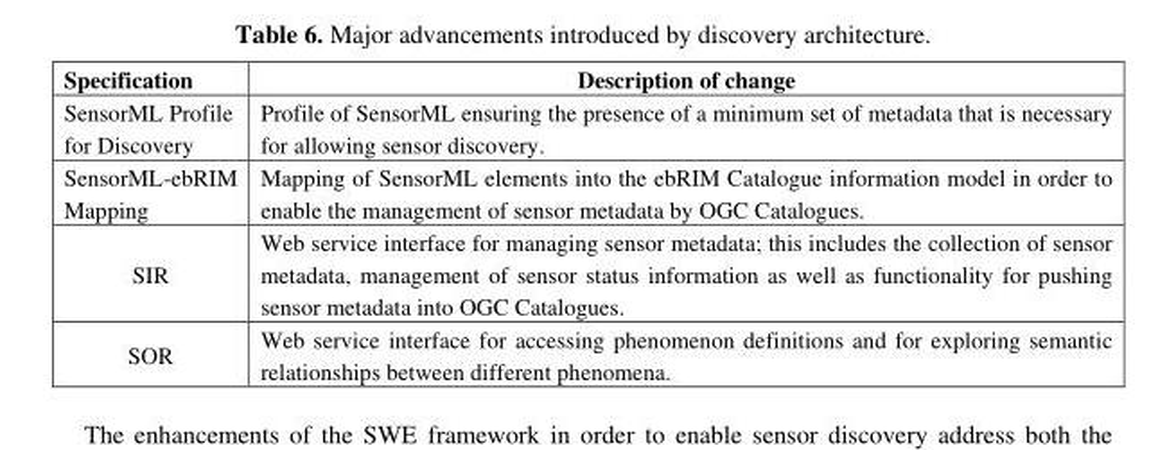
<table><thead><tr><td>Specification</td><td>Description of change</td></tr></thead><tbody><tr><td>SensorML Profile for Discovery</td><td>Profile of SensorML ensuring the presence of a minimum set of metadata that is necessary for allowing sensor discovery.</td></tr><tr><td>SensorML-ebRIM Mapping</td><td>Mapping of SensorML elements into the ebRIM Catalogue information model in order to enable the management of sensor metadata by OGC Catalogues.</td></tr><tr><td>SIR</td><td>Web service interface for managing sensor metadata; this includes the collection of sensor metadata, management of sensor status information as well as functionality for pushing sensor metadata into OGC Catalogues.</td></tr><tr><td>SOR</td><td>Web service interface for accessing phenomenon definitions and for exploring semantic relationships between different phenomena.</td></tr></tbody></table>